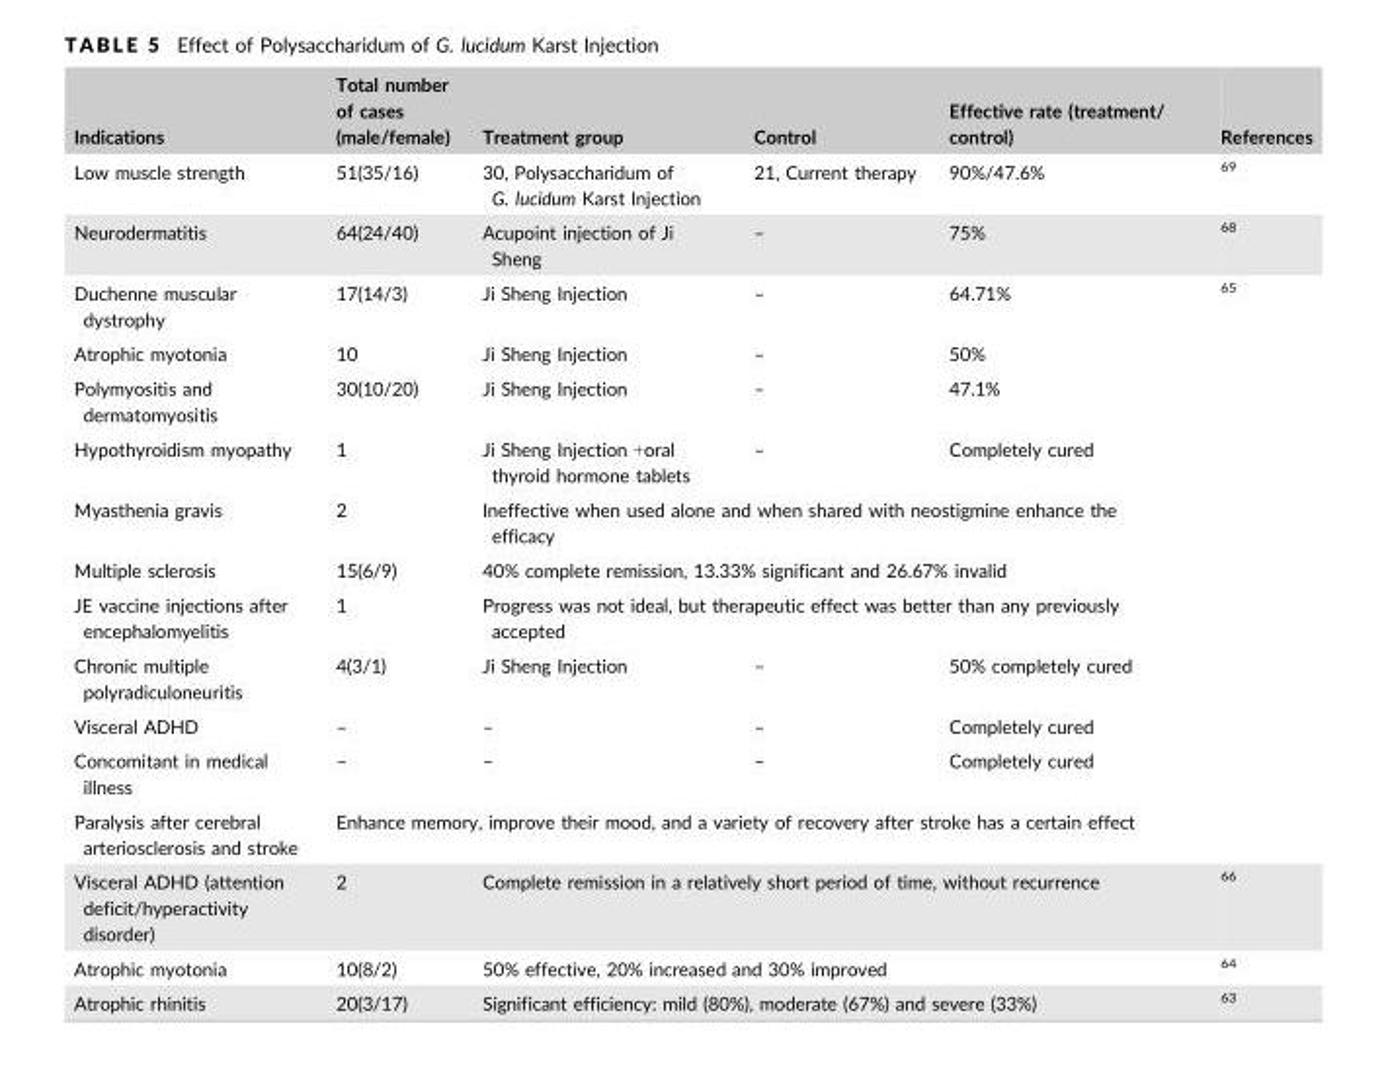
<table><thead><tr><td>Indications</td><td>Total number of cases (male/female)</td><td>Treatment group</td><td>Control</td><td>Effective rate (treatment/ control)</td><td>References</td></tr></thead><tbody><tr><td>Low muscle strength</td><td>51(35/16)</td><td>30, Polysaccharidum of G. lucidum Karst Injection</td><td>21, Current therapy</td><td>90%/47.6%</td><td>69</td></tr><tr><td>Neurodermatitis</td><td>64(24/40)</td><td>Acupoint injection of Ji Sheng</td><td>–</td><td>75%</td><td>68</td></tr><tr><td>Duchenne muscular dystrophy</td><td>17(14/3)</td><td>Ji Sheng Injection</td><td>–</td><td>64.71%</td><td rowspan="11">65</td></tr><tr><td>Atrophic myotonia</td><td>10</td><td>Ji Sheng Injection</td><td>–</td><td>50%</td></tr><tr><td>Polymyositis and dermatomyositis</td><td>30(10/20)</td><td>Ji Sheng Injection</td><td>–</td><td>47.1%</td></tr><tr><td>Hypothyroidism myopathy</td><td>1</td><td>Ji Sheng Injection +oral thyroid hormone tablets</td><td>–</td><td>Completely cured</td></tr><tr><td>Myasthenia gravis</td><td>2</td><td colspan="3">Ineffective when used alone and when shared with neostigmine enhance the efficacy</td></tr><tr><td>Multiple sclerosis</td><td>15(6/9)</td><td colspan="3">40% complete remission, 13.33% significant and 26.67% invalid</td></tr><tr><td>JE vaccine injections after encephalomyelitis</td><td>1</td><td colspan="3">Progress was not ideal, but therapeutic effect was better than any previously accepted</td></tr><tr><td>Chronic multiple polyradiculoneuritis</td><td>4(3/1)</td><td>Ji Sheng Injection</td><td>–</td><td>50% completely cured</td></tr><tr><td>Visceral ADHD</td><td>–</td><td>–</td><td>–</td><td>Completely cured</td></tr><tr><td>Concomitant in medical illness</td><td>–</td><td>–</td><td>–</td><td>Completely cured</td></tr><tr><td>Paralysis after cerebral arteriosclerosis and stroke</td><td colspan="4">Enhance memory, improve their mood, and a variety of recovery after stroke has a certain effect</td></tr><tr><td>Visceral ADHD (attention deficit/hyperactivity disorder)</td><td>2</td><td colspan="3">Complete remission in a relatively short period of time, without recurrence</td><td>66</td></tr><tr><td>Atrophic myotonia</td><td>10(8/2)</td><td colspan="3">50% effective, 20% increased and 30% improved</td><td>64</td></tr><tr><td>Atrophic rhinitis</td><td>20(3/17)</td><td colspan="3">Significant efficiency: mild (80%), moderate (67%) and severe (33%)</td><td>63</td></tr></tbody></table>